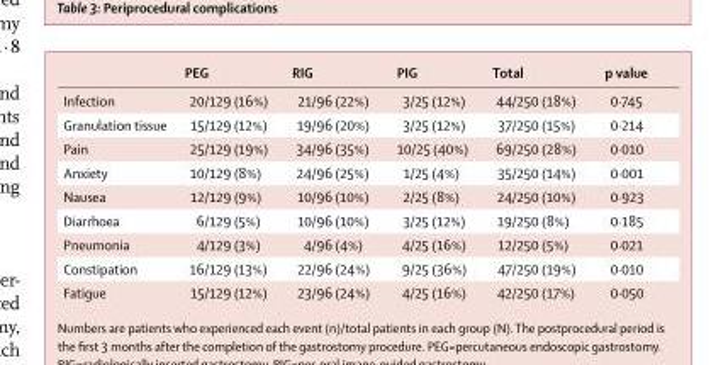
<table><thead><tr><td></td><td>PEG</td><td>RIG</td><td>PIG</td><td>Total</td><td>p value</td></tr></thead><tbody><tr><td>Infection</td><td>20/129 (16%)</td><td>21/96 (22%)</td><td>3/25 (12%)</td><td>44/250 (18%)</td><td>0·745</td></tr><tr><td>Granulation tissue</td><td>15/129 (12%)</td><td>19/96 (20%)</td><td>3/25 (12%)</td><td>37/250 (15%)</td><td>0·214</td></tr><tr><td>Pain</td><td>25/129 (19%)</td><td>34/96 (35%)</td><td>10/25 (40%)</td><td>69/250 (28%)</td><td>0·010</td></tr><tr><td>Anxiety</td><td>10/129 (8%)</td><td>24/96 (25%)</td><td>1/25 (4%)</td><td>35/250 (14%)</td><td>0·001</td></tr><tr><td>Nausea</td><td>12/129 (9%)</td><td>10/96 (10%)</td><td>2/25 (8%)</td><td>24/250 (10%)</td><td>0·923</td></tr><tr><td>Diarrhoea</td><td>6/129 (5%)</td><td>10/96 (10%)</td><td>3/25 (12%)</td><td>19/250 (8%)</td><td>0·185</td></tr><tr><td>Pneumonia</td><td>4/129 (3%)</td><td>4/96 (4%)</td><td>4/25 (16%)</td><td>12/250 (5%)</td><td>0·021</td></tr><tr><td>Constipation</td><td>16/129 (13%)</td><td>22/96 (24%)</td><td>9/25 (36%)</td><td>47/250 (19%)</td><td>0·010</td></tr><tr><td>Fatigue</td><td>15/129 (12%)</td><td>23/96 (24%)</td><td>4/25 (16%)</td><td>42/250 (17%)</td><td>0·050</td></tr></tbody></table>